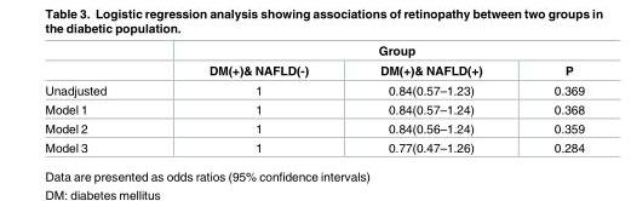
<table><thead><tr><td rowspan="2"></td><td colspan="3">Group</td></tr><tr><td>DM(+)&amp; NAFLD(-)</td><td>DM(+)&amp; NAFLD(+)</td><td>P</td></tr></thead><tbody><tr><td>Unadjusted</td><td>1</td><td>0.84(0.57–1.23)</td><td>0.369</td></tr><tr><td>Model 1</td><td>1</td><td>0.84(0.57–1.24)</td><td>0.368</td></tr><tr><td>Model 2</td><td>1</td><td>0.84(0.56–1.24)</td><td>0.359</td></tr><tr><td>Model 3</td><td>1</td><td>0.77(0.47–1.26)</td><td>0.284</td></tr></tbody></table>